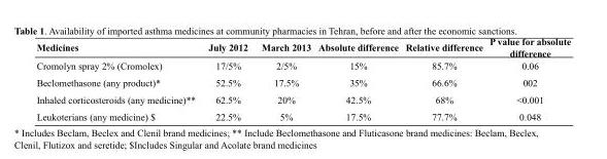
<table><thead><tr><td>P value for absolute difference</td><td>Relative difference</td><td>Absolute difference</td><td>March 2013</td><td>July 2012</td><td>Medicines</td></tr></thead><tbody><tr><td>0.06</td><td>85.7%</td><td>15%</td><td>2/5%</td><td>17/5%</td><td>Cromolyn spray 2% (Cromolex)</td></tr><tr><td>002</td><td>66.6%</td><td>35%</td><td>17.5%</td><td>52.5%</td><td>Beclomethasone (any product)*</td></tr><tr><td>&lt;0.001</td><td>68%</td><td>42.5%</td><td>20%</td><td>62.5%</td><td>Inhaled corticosteroids (any medicine)**</td></tr><tr><td>0.048</td><td>77.7%</td><td>17.5%</td><td>5%</td><td>22.5%</td><td>Leukoterians (any medicine) $</td></tr></tbody></table>